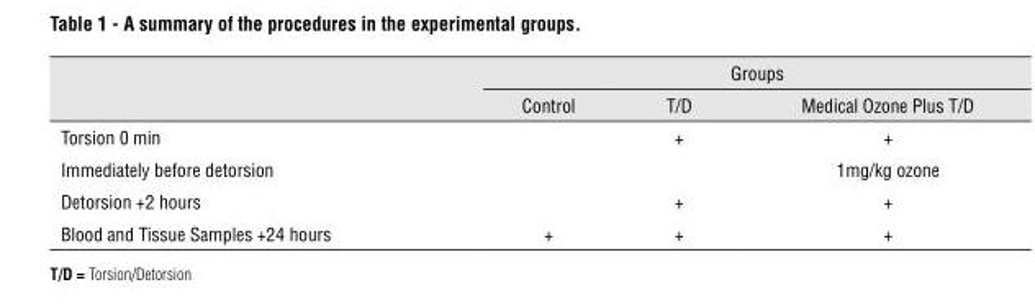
<table><thead><tr><td rowspan="2"></td><td colspan="3">Groups</td></tr><tr><td>Control</td><td>T/D</td><td>Medical Ozone Plus T/D</td></tr></thead><tbody><tr><td>Torsion 0 min</td><td></td><td>+</td><td>+</td></tr><tr><td>Immediately before detorsion</td><td></td><td></td><td>1mg/kg ozone</td></tr><tr><td>Detorsion +2 hours</td><td></td><td>+</td><td>+</td></tr><tr><td>Blood and Tissue Samples +24 hours</td><td>+</td><td>+</td><td>+</td></tr></tbody></table>